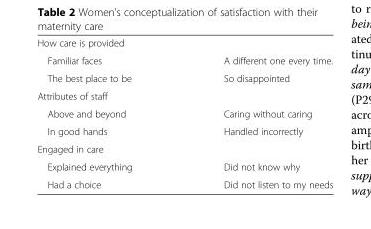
<table><tbody><tr><td colspan="2">How care is provided</td></tr><tr><td>Familiar faces</td><td>A different one every time.</td></tr><tr><td>The best place to be</td><td>So disappointed</td></tr><tr><td colspan="2">Attributes of staff</td></tr><tr><td>Above and beyond</td><td>Caring without caring</td></tr><tr><td>In good hands</td><td>Handled incorrectly</td></tr><tr><td colspan="2">Engaged in care</td></tr><tr><td>Explained everything</td><td>Did not know why</td></tr><tr><td>Had a choice</td><td>Did not listen to my needs</td></tr></tbody></table>